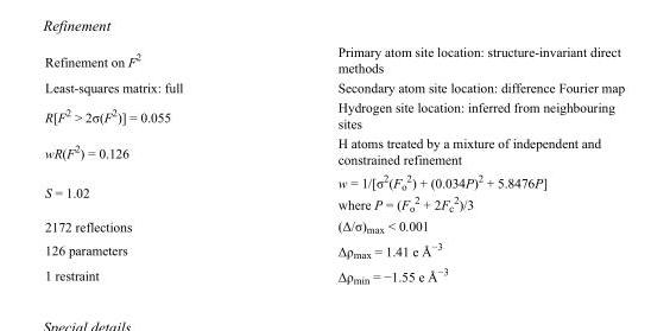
<table><tbody><tr><td>Refinement on F<sup>2</sup></td><td>Primary atom site location: structure-invariant direct methods</td></tr><tr><td>Least-squares matrix: full</td><td>Secondary atom site location: difference Fourier map</td></tr><tr><td>R[F<sup>2</sup> &gt; 2σ(F<sup>2</sup>)] = 0.055</td><td>Hydrogen site location: inferred from neighbouring sites</td></tr><tr><td>wR(F<sup>2</sup>) = 0.126</td><td>H atoms treated by a mixture of independent and constrained refinement</td></tr><tr><td>S = 1.02</td><td>w = 1/[σ<sup>2</sup>(F<sub>o</sub> <sup>2</sup>) + (0.034P)<sup>2</sup> + 5.8476P] where P = (F<sub>o</sub> <sup>2</sup> + 2F<sub>c</sub> <sup>2</sup>)/3</td></tr><tr><td>2172 reflections</td><td>(Δ/σ)<sub>max</sub> &lt; 0.001</td></tr><tr><td>126 parameters</td><td>Δρ<sub>max</sub> = 1.41 e Å<sup>−3</sup></td></tr><tr><td>1 restraint</td><td>Δρ<sub>min</sub> = −1.55 e Å<sup>−3</sup></td></tr></tbody></table>